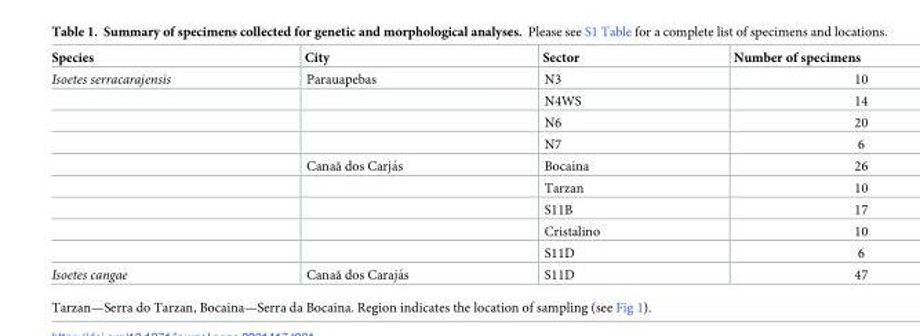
<table><thead><tr><td>Species</td><td>City</td><td>Sector</td><td>Number of specimens</td></tr></thead><tbody><tr><td rowspan="9">Isoetes serracarajensis</td><td>Parauapebas</td><td>N3</td><td>10</td></tr><tr><td></td><td>N4WS</td><td>14</td></tr><tr><td></td><td>N6</td><td>20</td></tr><tr><td></td><td>N7</td><td>6</td></tr><tr><td>Canaã dos Carja´s</td><td>Bocaina</td><td>26</td></tr><tr><td></td><td>Tarzan</td><td>10</td></tr><tr><td></td><td>S11B</td><td>17</td></tr><tr><td></td><td>Cristalino</td><td>10</td></tr><tr><td></td><td>S11D</td><td>6</td></tr><tr><td>Isoetes cangae</td><td>Canaã dos Caraja´s</td><td>S11D</td><td>47</td></tr></tbody></table>